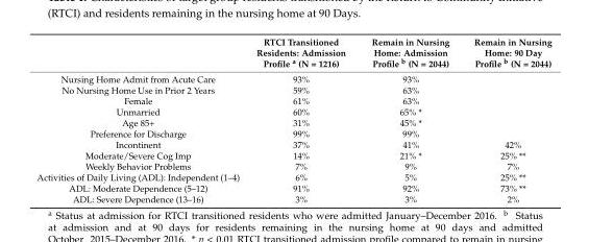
<table><thead><tr><td></td><td>RTCI Transitioned Residents: Admission Profile <sup>a</sup> (N = 1216)</td><td>Remain in Nursing Home: Admission Profile <sup>b</sup> (N = 2044)</td><td>Remain in Nursing Home: 90 Day Profile <sup>b</sup> (N = 2044)</td></tr></thead><tbody><tr><td>Nursing Home Admit from Acute Care</td><td>93%</td><td>93%</td><td></td></tr><tr><td>No Nursing Home Use in Prior 2 Years</td><td>59%</td><td>63%</td><td></td></tr><tr><td>Female</td><td>61%</td><td>63%</td><td></td></tr><tr><td>Unmarried</td><td>60%</td><td>65% *</td><td></td></tr><tr><td>Age 85+</td><td>31%</td><td>45% *</td><td></td></tr><tr><td>Preference for Discharge</td><td>99%</td><td>99%</td><td></td></tr><tr><td>Incontinent</td><td>37%</td><td>41%</td><td>42%</td></tr><tr><td>Moderate/Severe Cog Imp</td><td>14%</td><td>21% *</td><td>25% **</td></tr><tr><td>Weekly Behavior Problems</td><td>7%</td><td>9%</td><td>7%</td></tr><tr><td>Activities of Daily Living (ADL): Independent (1–4)</td><td>6%</td><td>5%</td><td>25% **</td></tr><tr><td>ADL: Moderate Dependence (5–12)</td><td>91%</td><td>92%</td><td>73% **</td></tr><tr><td>ADL: Severe Dependence (13–16)</td><td>3%</td><td>3%</td><td>2%</td></tr></tbody></table>